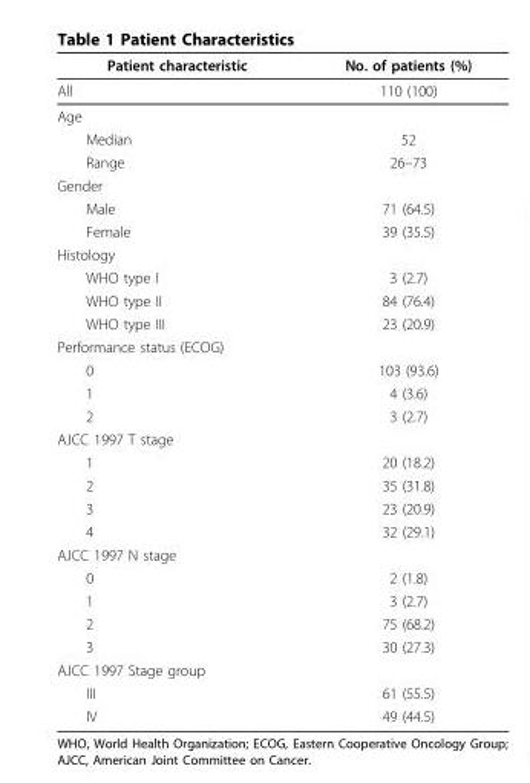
<table><thead><tr><td>Patient characteristic</td><td>No. of patients (%)</td></tr></thead><tbody><tr><td>All</td><td>110 (100)</td></tr><tr><td colspan="2">Age</td></tr><tr><td>Median</td><td>52</td></tr><tr><td>Range</td><td>26–73</td></tr><tr><td colspan="2">Gender</td></tr><tr><td>Male</td><td>71 (64.5)</td></tr><tr><td>Female</td><td>39 (35.5)</td></tr><tr><td colspan="2">Histology</td></tr><tr><td>WHO type I</td><td>3 (2.7)</td></tr><tr><td>WHO type II</td><td>84 (76.4)</td></tr><tr><td>WHO type III</td><td>23 (20.9)</td></tr><tr><td colspan="2">Performance status (ECOG)</td></tr><tr><td>0</td><td>103 (93.6)</td></tr><tr><td>1</td><td>4 (3.6)</td></tr><tr><td>2</td><td>3 (2.7)</td></tr><tr><td colspan="2">AJCC 1997 T stage</td></tr><tr><td>1</td><td>20 (18.2)</td></tr><tr><td>2</td><td>35 (31.8)</td></tr><tr><td>3</td><td>23 (20.9)</td></tr><tr><td>4</td><td>32 (29.1)</td></tr><tr><td colspan="2">AJCC 1997 N stage</td></tr><tr><td>0</td><td>2 (1.8)</td></tr><tr><td>1</td><td>3 (2.7)</td></tr><tr><td>2</td><td>75 (68.2)</td></tr><tr><td>3</td><td>30 (27.3)</td></tr><tr><td colspan="2">AJCC 1997 Stage group</td></tr><tr><td>III</td><td>61 (55.5)</td></tr><tr><td>IV</td><td>49 (44.5)</td></tr></tbody></table>